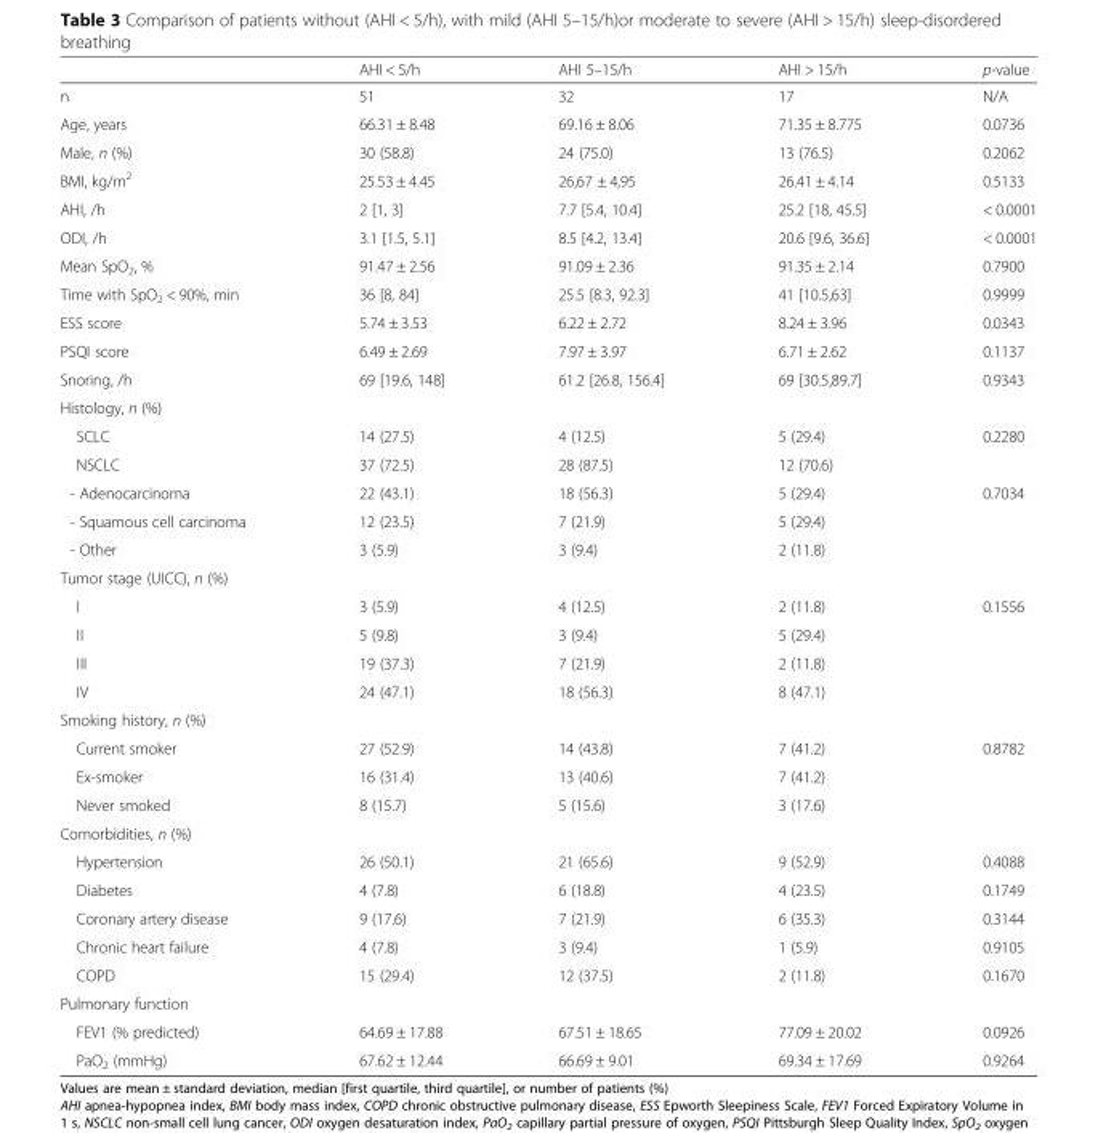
<table><thead><tr><td></td><td>AHI &lt; 5/h</td><td>AHI 5–15/h</td><td>AHI &gt; 15/h</td><td>p-value</td></tr></thead><tbody><tr><td>n</td><td>51</td><td>32</td><td>17</td><td>N/A</td></tr><tr><td>Age, years</td><td>66.31 ± 8.48</td><td>69.16 ± 8.06</td><td>71.35 ± 8.775</td><td>0.0736</td></tr><tr><td>Male, n (%)</td><td>30 (58.8)</td><td>24 (75.0)</td><td>13 (76.5)</td><td>0.2062</td></tr><tr><td>BMI, kg/m<sup>2</sup></td><td>25.53 ± 4.45</td><td>26,67 ± 4,95</td><td>26.41 ± 4.14</td><td>0.5133</td></tr><tr><td>AHI, /h</td><td>2 [1, 3]</td><td>7.7 [5.4, 10.4]</td><td>25.2 [18, 45.5]</td><td>&lt; 0.0001</td></tr><tr><td>ODI, /h</td><td>3.1 [1.5, 5.1]</td><td>8.5 [4.2, 13.4]</td><td>20.6 [9.6, 36.6]</td><td>&lt; 0.0001</td></tr><tr><td>Mean SpO<sub>2</sub>, %</td><td>91.47 ± 2.56</td><td>91.09 ± 2.36</td><td>91.35 ± 2.14</td><td>0.7900</td></tr><tr><td>Time with SpO<sub>2</sub> &lt; 90%, min</td><td>36 [8, 84]</td><td>25.5 [8.3, 92.3]</td><td>41 [10.5,63]</td><td>0.9999</td></tr><tr><td>ESS score</td><td>5.74 ± 3.53</td><td>6.22 ± 2.72</td><td>8.24 ± 3.96</td><td>0.0343</td></tr><tr><td>PSQI score</td><td>6.49 ± 2.69</td><td>7.97 ± 3.97</td><td>6.71 ± 2.62</td><td>0.1137</td></tr><tr><td>Snoring, /h</td><td>69 [19.6, 148]</td><td>61.2 [26.8, 156.4]</td><td>69 [30.5,89.7]</td><td>0.9343</td></tr><tr><td colspan="5">Histology, n (%)</td></tr><tr><td>SCLC</td><td>14 (27.5)</td><td>4 (12.5)</td><td>5 (29.4)</td><td rowspan="2">0.2280</td></tr><tr><td>NSCLC</td><td>37 (72.5)</td><td>28 (87.5)</td><td>12 (70.6)</td></tr><tr><td>- Adenocarcinoma</td><td>22 (43.1)</td><td>18 (56.3)</td><td>5 (29.4)</td><td rowspan="3">0.7034</td></tr><tr><td>- Squamous cell carcinoma</td><td>12 (23.5)</td><td>7 (21.9)</td><td>5 (29.4)</td></tr><tr><td>- Other</td><td>3 (5.9)</td><td>3 (9.4)</td><td>2 (11.8)</td></tr><tr><td colspan="5">Tumor stage (UICC), n (%)</td></tr><tr><td>I</td><td>3 (5.9)</td><td>4 (12.5)</td><td>2 (11.8)</td><td rowspan="4">0.1556</td></tr><tr><td>II</td><td>5 (9.8)</td><td>3 (9.4)</td><td>5 (29.4)</td></tr><tr><td>III</td><td>19 (37.3)</td><td>7 (21.9)</td><td>2 (11.8)</td></tr><tr><td>IV</td><td>24 (47.1)</td><td>18 (56.3)</td><td>8 (47.1)</td></tr><tr><td colspan="5">Smoking history, n (%)</td></tr><tr><td>Current smoker</td><td>27 (52.9)</td><td>14 (43.8)</td><td>7 (41.2)</td><td rowspan="3">0.8782</td></tr><tr><td>Ex-smoker</td><td>16 (31.4)</td><td>13 (40.6)</td><td>7 (41.2)</td></tr><tr><td>Never smoked</td><td>8 (15.7)</td><td>5 (15.6)</td><td>3 (17.6)</td></tr><tr><td colspan="5">Comorbidities, n (%)</td></tr><tr><td>Hypertension</td><td>26 (50.1)</td><td>21 (65.6)</td><td>9 (52.9)</td><td>0.4088</td></tr><tr><td>Diabetes</td><td>4 (7.8)</td><td>6 (18.8)</td><td>4 (23.5)</td><td>0.1749</td></tr><tr><td>Coronary artery disease</td><td>9 (17.6)</td><td>7 (21.9)</td><td>6 (35.3)</td><td>0.3144</td></tr><tr><td>Chronic heart failure</td><td>4 (7.8)</td><td>3 (9.4)</td><td>1 (5.9)</td><td>0.9105</td></tr><tr><td>COPD</td><td>15 (29.4)</td><td>12 (37.5)</td><td>2 (11.8)</td><td>0.1670</td></tr><tr><td colspan="5">Pulmonary function</td></tr><tr><td>FEV1 (% predicted)</td><td>64.69 ± 17.88</td><td>67.51 ± 18.65</td><td>77.09 ± 20.02</td><td>0.0926</td></tr><tr><td>PaO<sub>2</sub> (mmHg)</td><td>67.62 ± 12.44</td><td>66.69 ± 9.01</td><td>69.34 ± 17.69</td><td>0.9264</td></tr></tbody></table>